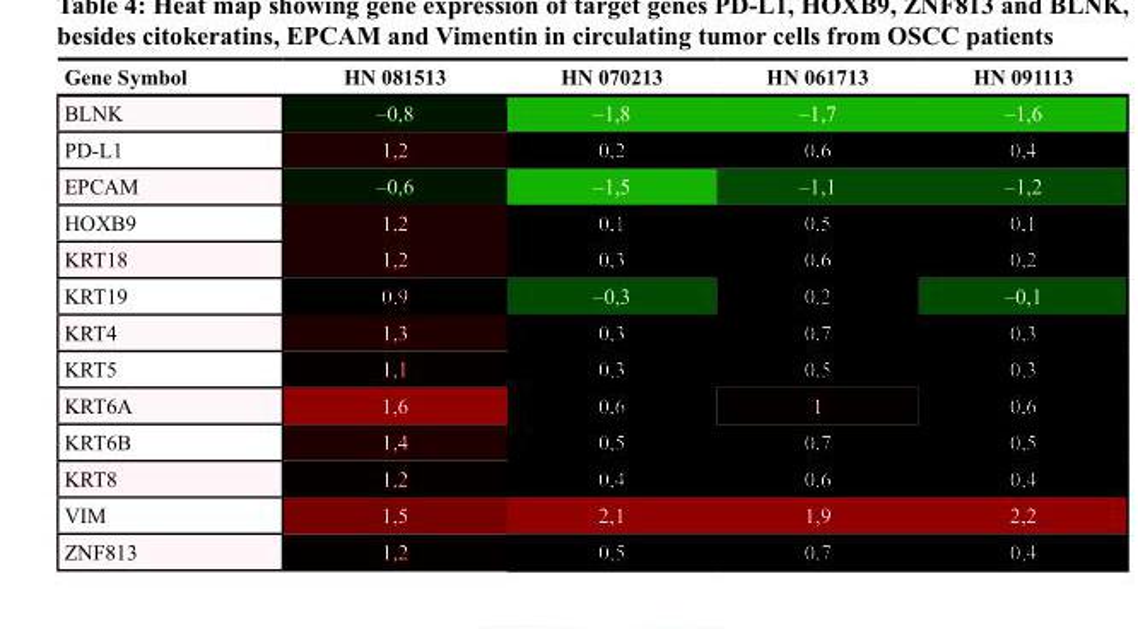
<table><thead><tr><td>Gene Symbol</td><td>HN 081513</td><td>HN 070213</td><td>HN 061713</td><td>HN 091113</td></tr></thead><tbody><tr><td>BLNK</td><td>–0,8</td><td>–1,8</td><td>–1,7</td><td>–1,6</td></tr><tr><td>PD-L1</td><td>1,2</td><td>0,2</td><td>0,6</td><td>0,4</td></tr><tr><td>EPCAM</td><td>–0,6</td><td>–1,5</td><td>–1,1</td><td>–1,2</td></tr><tr><td>HOXB9</td><td>1,2</td><td>0,1</td><td>0,5</td><td>0,1</td></tr><tr><td>KRT18</td><td>1,2</td><td>0,3</td><td>0,6</td><td>0,2</td></tr><tr><td>KRT19</td><td>0,9</td><td>–0,3</td><td>0,2</td><td>–0,1</td></tr><tr><td>KRT4</td><td>1,3</td><td>0,3</td><td>0,7</td><td>0,3</td></tr><tr><td>KRT5</td><td>1,1</td><td>0,3</td><td>0,5</td><td>0,3</td></tr><tr><td>KRT6A</td><td>1,6</td><td>0,6</td><td>1</td><td>0,6</td></tr><tr><td>KRT6B</td><td>1,4</td><td>0,5</td><td>0,7</td><td>0,5</td></tr><tr><td>KRT8</td><td>1,2</td><td>0,4</td><td>0,6</td><td>0,4</td></tr><tr><td>VIM</td><td>1,5</td><td>2,1</td><td>1,9</td><td>2,2</td></tr><tr><td>ZNF813</td><td>1,2</td><td>0,5</td><td>0,7</td><td>0,4</td></tr></tbody></table>